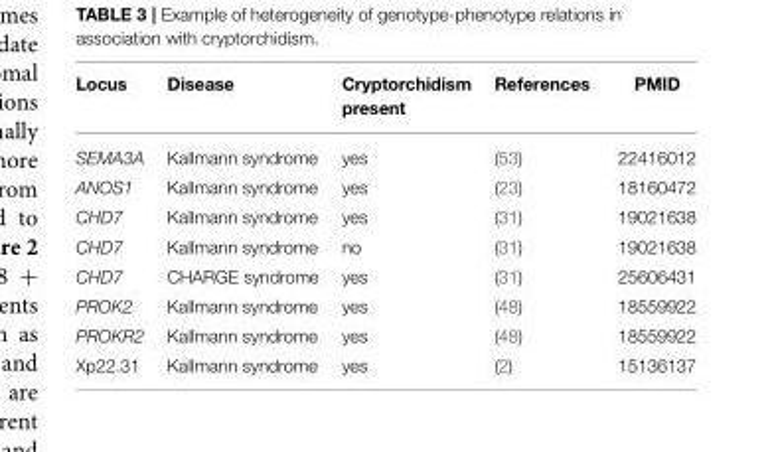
<table><thead><tr><td>Locus</td><td>Disease</td><td>Cryptorchidism present</td><td>References</td><td>PMID</td></tr></thead><tbody><tr><td>SEMA3A</td><td>Kallmann syndrome</td><td>yes</td><td>(53)</td><td>22416012</td></tr><tr><td>ANOS1</td><td>Kallmann syndrome</td><td>yes</td><td>(23)</td><td>18160472</td></tr><tr><td>CHD7</td><td>Kallmann syndrome</td><td>yes</td><td>(31)</td><td>19021638</td></tr><tr><td>CHD7</td><td>Kallmann syndrome</td><td>no</td><td>(31)</td><td>19021638</td></tr><tr><td>CHD7</td><td>CHARGE syndrome</td><td>yes</td><td>(31)</td><td>25606431</td></tr><tr><td>PROK2</td><td>Kallmann syndrome</td><td>yes</td><td>(48)</td><td>18559922</td></tr><tr><td>PROKR2</td><td>Kallmann syndrome</td><td>yes</td><td>(48)</td><td>18559922</td></tr><tr><td>Xp22.31</td><td>Kallmann syndrome</td><td>yes</td><td>(2)</td><td>15136137</td></tr></tbody></table>